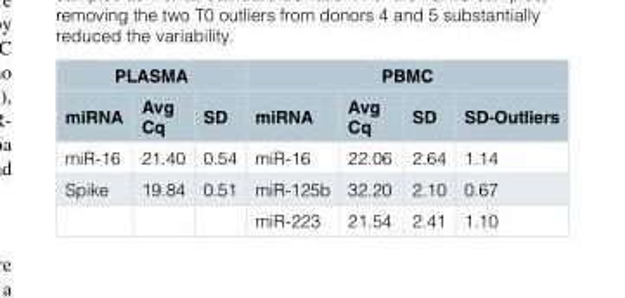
<table><thead><tr><td colspan="3">PLASMA</td><td colspan="4">PBMC</td></tr><tr><td>miRNA</td><td>Avg Cq</td><td>SD</td><td>miRNA</td><td>Avg Cq</td><td>SD</td><td>SD-Outliers</td></tr></thead><tbody><tr><td>miR-16</td><td>21.40</td><td>0.54</td><td>miR-16</td><td>22.06</td><td>2.64</td><td>1.14</td></tr><tr><td rowspan="2">Spike</td><td>19.84</td><td>0.51</td><td>miR-125b</td><td>32.20</td><td>2.10</td><td>0.67</td></tr><tr><td></td><td></td><td>miR-223</td><td>21.54</td><td>2.41</td><td>1.10</td></tr></tbody></table>